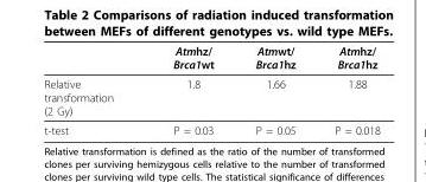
<table><thead><tr><td></td><td>Atmhz/ Brca1wt</td><td>Atmwt/ Brca1hz</td><td>Atmhz/ Brca1hz</td></tr></thead><tbody><tr><td>Relative transformation (2 Gy)</td><td>1.8</td><td>1.66</td><td>1.88</td></tr><tr><td>t-test</td><td>P = 0.03</td><td>P = 0.05</td><td>P = 0.018</td></tr></tbody></table>